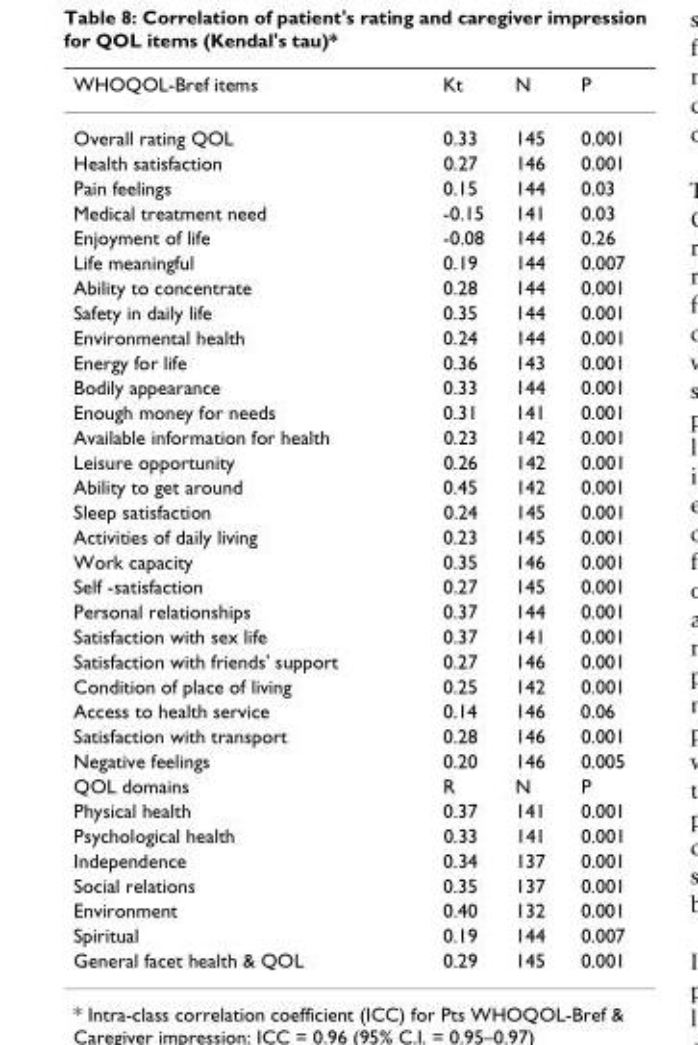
<table><thead><tr><td>WHOQOL-Bref items</td><td>Kt</td><td>N</td><td>P</td></tr></thead><tbody><tr><td>Overall rating QOL</td><td>0.33</td><td>145</td><td>0.001</td></tr><tr><td>Health satisfaction</td><td>0.27</td><td>146</td><td>0.001</td></tr><tr><td>Pain feelings</td><td>0.15</td><td>144</td><td>0.03</td></tr><tr><td>Medical treatment need</td><td>-0.15</td><td>141</td><td>0.03</td></tr><tr><td>Enjoyment of life</td><td>-0.08</td><td>144</td><td>0.26</td></tr><tr><td>Life meaningful</td><td>0.19</td><td>144</td><td>0.007</td></tr><tr><td>Ability to concentrate</td><td>0.28</td><td>144</td><td>0.001</td></tr><tr><td>Safety in daily life</td><td>0.35</td><td>144</td><td>0.001</td></tr><tr><td>Environmental health</td><td>0.24</td><td>144</td><td>0.001</td></tr><tr><td>Energy for life</td><td>0.36</td><td>143</td><td>0.001</td></tr><tr><td>Bodily appearance</td><td>0.33</td><td>144</td><td>0.001</td></tr><tr><td>Enough money for needs</td><td>0.31</td><td>141</td><td>0.001</td></tr><tr><td>Available information for health</td><td>0.23</td><td>142</td><td>0.001</td></tr><tr><td>Leisure opportunity</td><td>0.26</td><td>142</td><td>0.001</td></tr><tr><td>Ability to get around</td><td>0.45</td><td>142</td><td>0.001</td></tr><tr><td>Sleep satisfaction</td><td>0.24</td><td>145</td><td>0.001</td></tr><tr><td>Activities of daily living</td><td>0.23</td><td>145</td><td>0.001</td></tr><tr><td>Work capacity</td><td>0.35</td><td>146</td><td>0.001</td></tr><tr><td>Self -satisfaction</td><td>0.27</td><td>145</td><td>0.001</td></tr><tr><td>Personal relationships</td><td>0.37</td><td>144</td><td>0.001</td></tr><tr><td>Satisfaction with sex life</td><td>0.37</td><td>141</td><td>0.001</td></tr><tr><td>Satisfaction with friends&#x27; support</td><td>0.27</td><td>146</td><td>0.001</td></tr><tr><td>Condition of place of living</td><td>0.25</td><td>142</td><td>0.001</td></tr><tr><td>Access to health service</td><td>0.14</td><td>146</td><td>0.06</td></tr><tr><td>Satisfaction with transport</td><td>0.28</td><td>146</td><td>0.001</td></tr><tr><td>Negative feelings</td><td>0.20</td><td>146</td><td>0.005</td></tr><tr><td>QOL domains</td><td>R</td><td>N</td><td>P</td></tr><tr><td>Physical health</td><td>0.37</td><td>141</td><td>0.001</td></tr><tr><td>Psychological health</td><td>0.33</td><td>141</td><td>0.001</td></tr><tr><td>Independence</td><td>0.34</td><td>137</td><td>0.001</td></tr><tr><td>Social relations</td><td>0.35</td><td>137</td><td>0.001</td></tr><tr><td>Environment</td><td>0.40</td><td>132</td><td>0.001</td></tr><tr><td>Spiritual</td><td>0.19</td><td>144</td><td>0.007</td></tr><tr><td>General facet health &amp; QOL</td><td>0.29</td><td>145</td><td>0.001</td></tr></tbody></table>